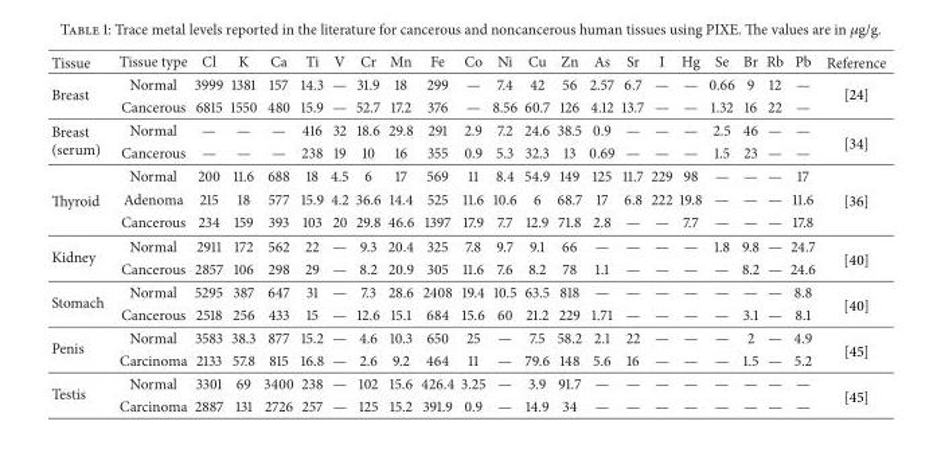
<table><thead><tr><td>Tissue</td><td>Tissue type</td><td>Cl</td><td>K</td><td>Ca</td><td>Ti</td><td>V</td><td>Cr</td><td>Mn</td><td>Fe</td><td>Co</td><td>Ni</td><td>Cu</td><td>Zn</td><td>As</td><td>Sr</td><td>I</td><td>Hg</td><td>Se</td><td>Br</td><td>Rb</td><td>Pb</td><td>Reference</td></tr></thead><tbody><tr><td rowspan="2">Breast</td><td>Normal</td><td>3999</td><td>1381</td><td>157</td><td>14.3</td><td>—</td><td>31.9</td><td>18</td><td>299</td><td>—</td><td>7.4</td><td>42</td><td>56</td><td>2.57</td><td>6.7</td><td>—</td><td>—</td><td>0.66</td><td>9</td><td>12</td><td>—</td><td rowspan="2">[24]</td></tr><tr><td>Cancerous</td><td>6815</td><td>1550</td><td>480</td><td>15.9</td><td>—</td><td>52.7</td><td>17.2</td><td>376</td><td>—</td><td>8.56</td><td>60.7</td><td>126</td><td>4.12</td><td>13.7</td><td>—</td><td>—</td><td>1.32</td><td>16</td><td>22</td><td>—</td></tr><tr><td rowspan="3">Breast (serum)</td><td>Normal</td><td>—</td><td>—</td><td>—</td><td>416</td><td>32</td><td>18.6</td><td>29.8</td><td>291</td><td>2.9</td><td>7.2</td><td>24.6</td><td>38.5</td><td>0.9</td><td>—</td><td>—</td><td>—</td><td>2.5</td><td>46</td><td>—</td><td>—</td><td rowspan="2">[34]</td></tr><tr><td>Cancerous</td><td>—</td><td>—</td><td>—</td><td>238</td><td>19</td><td>10</td><td>16</td><td>355</td><td>0.9</td><td>5.3</td><td>32.3</td><td>13</td><td>0.69</td><td>—</td><td>—</td><td>—</td><td>1.5</td><td>23</td><td>—</td><td>—</td></tr><tr><td>Normal</td><td>200</td><td>11.6</td><td>688</td><td>18</td><td>4.5</td><td>6</td><td>17</td><td>569</td><td>11</td><td>8.4</td><td>54.9</td><td>149</td><td>125</td><td>11.7</td><td>229</td><td>98</td><td>—</td><td>—</td><td>—</td><td>17</td><td></td></tr><tr><td rowspan="2">Thyroid</td><td>Adenoma</td><td>215</td><td>18</td><td>577</td><td>15.9</td><td>4.2</td><td>36.6</td><td>14.4</td><td>525</td><td>11.6</td><td>10.6</td><td>6</td><td>68.7</td><td>17</td><td>6.8</td><td>222</td><td>19.8</td><td>—</td><td>—</td><td>—</td><td>11.6</td><td>[36]</td></tr><tr><td>Cancerous</td><td>234</td><td>159</td><td>393</td><td>103</td><td>20</td><td>29.8</td><td>46.6</td><td>1397</td><td>17.9</td><td>7.7</td><td>12.9</td><td>71.8</td><td>2.8</td><td>—</td><td>—</td><td>7.7</td><td>—</td><td>—</td><td>—</td><td>17.8</td><td></td></tr><tr><td rowspan="2">Kidney</td><td>Normal</td><td>2911</td><td>172</td><td>562</td><td>22</td><td>—</td><td>9.3</td><td>20.4</td><td>325</td><td>7.8</td><td>9.7</td><td>9.1</td><td>66</td><td>—</td><td>—</td><td>—</td><td>—</td><td>1.8</td><td>9.8</td><td>—</td><td>24.7</td><td rowspan="2">[40]</td></tr><tr><td>Cancerous</td><td>2857</td><td>106</td><td>298</td><td>29</td><td>—</td><td>8.2</td><td>20.9</td><td>305</td><td>11.6</td><td>7.6</td><td>8.2</td><td>78</td><td>1.1</td><td>—</td><td>—</td><td>—</td><td>—</td><td>8.2</td><td>—</td><td>24.6</td></tr><tr><td rowspan="2">Stomach</td><td>Normal</td><td>5295</td><td>387</td><td>647</td><td>31</td><td>—</td><td>7.3</td><td>28.6</td><td>2408</td><td>19.4</td><td>10.5</td><td>63.5</td><td>818</td><td>—</td><td>—</td><td>—</td><td>—</td><td>—</td><td>—</td><td>—</td><td>8.8</td><td rowspan="2">[40]</td></tr><tr><td>Cancerous</td><td>2518</td><td>256</td><td>433</td><td>15</td><td>—</td><td>12.6</td><td>15.1</td><td>684</td><td>15.6</td><td>60</td><td>21.2</td><td>229</td><td>1.71</td><td>—</td><td>—</td><td>—</td><td>—</td><td>3.1</td><td>—</td><td>8.1</td></tr><tr><td rowspan="2">Penis</td><td>Normal</td><td>3583</td><td>38.3</td><td>877</td><td>15.2</td><td>—</td><td>4.6</td><td>10.3</td><td>650</td><td>25</td><td>—</td><td>7.5</td><td>58.2</td><td>2.1</td><td>22</td><td>—</td><td>—</td><td>—</td><td>2</td><td>—</td><td>4.9</td><td rowspan="2">[45]</td></tr><tr><td>Carcinoma</td><td>2133</td><td>57.8</td><td>815</td><td>16.8</td><td>—</td><td>2.6</td><td>9.2</td><td>464</td><td>11</td><td>—</td><td>79.6</td><td>148</td><td>5.6</td><td>16</td><td>—</td><td>—</td><td>—</td><td>1.5</td><td>—</td><td>5.2</td></tr><tr><td rowspan="2">Testis</td><td>Normal</td><td>3301</td><td>69</td><td>3400</td><td>238</td><td>—</td><td>102</td><td>15.6</td><td>426.4</td><td>3.25</td><td>—</td><td>3.9</td><td>91.7</td><td>—</td><td>—</td><td>—</td><td>—</td><td>—</td><td>—</td><td>—</td><td>—</td><td rowspan="2">[45]</td></tr><tr><td>Carcinoma</td><td>2887</td><td>131</td><td>2726</td><td>257</td><td>—</td><td>125</td><td>15.2</td><td>391.9</td><td>0.9</td><td>—</td><td>14.9</td><td>34</td><td>—</td><td>—</td><td>—</td><td>—</td><td>—</td><td>—</td><td>—</td><td>—</td></tr></tbody></table>